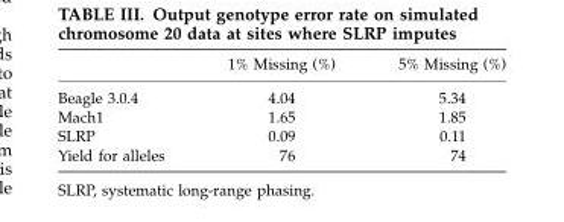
<table><thead><tr><td></td><td>1% Missing (%)</td><td>5% Missing (%)</td></tr></thead><tbody><tr><td>Beagle 3.0.4</td><td>4.04</td><td>5.34</td></tr><tr><td>Mach1</td><td>1.65</td><td>1.85</td></tr><tr><td>SLRP</td><td>0.09</td><td>0.11</td></tr><tr><td>Yield for alleles</td><td>76</td><td>74</td></tr></tbody></table>